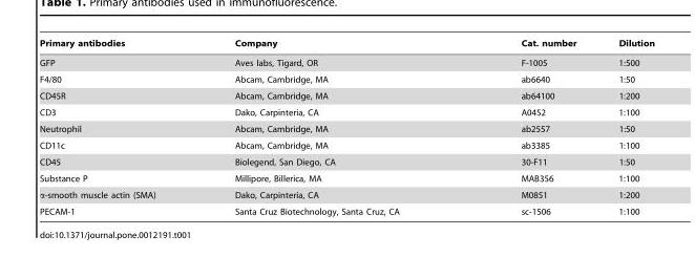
<table><thead><tr><td>Primary antibodies</td><td>Company</td><td>Cat. number</td><td>Dilution</td></tr></thead><tbody><tr><td>GFP</td><td>Aves labs, Tigard, OR</td><td>F-1005</td><td>1:500</td></tr><tr><td>F4/80</td><td>Abcam, Cambridge, MA</td><td>ab6640</td><td>1:50</td></tr><tr><td>CD45R</td><td>Abcam, Cambridge, MA</td><td>ab64100</td><td>1:200</td></tr><tr><td>CD3</td><td>Dako, Carpinteria, CA</td><td>A0452</td><td>1:100</td></tr><tr><td>Neutrophil</td><td>Abcam, Cambridge, MA</td><td>ab2557</td><td>1:50</td></tr><tr><td>CD11c</td><td>Abcam, Cambridge, MA</td><td>ab3385</td><td>1:100</td></tr><tr><td>CD45</td><td>Biolegend, San Diego, CA</td><td>30-F11</td><td>1:50</td></tr><tr><td>Substance P</td><td>Millipore, Billerica, MA</td><td>MAB356</td><td>1:100</td></tr><tr><td>α-smooth muscle actin (SMA)</td><td>Dako, Carpinteria, CA</td><td>M0851</td><td>1:200</td></tr><tr><td>PECAM-1</td><td>Santa Cruz Biotechnology, Santa Cruz, CA</td><td>sc-1506</td><td>1:100</td></tr></tbody></table>